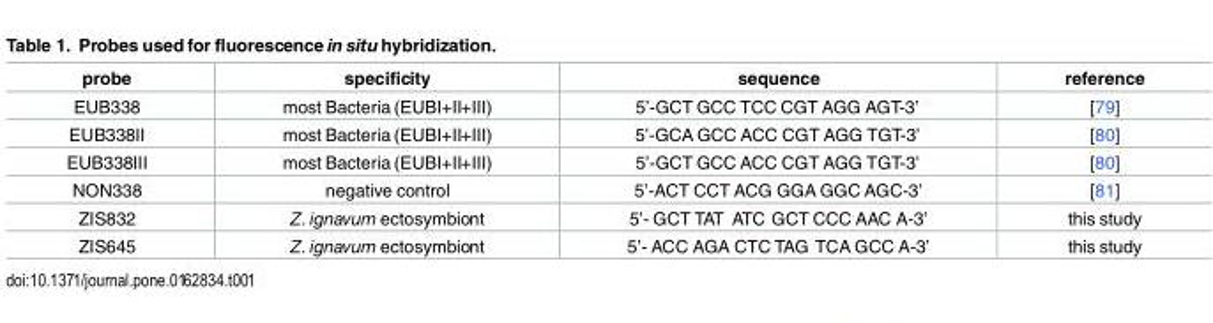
<table><thead><tr><td>probe</td><td>specificity</td><td>sequence</td><td>reference</td></tr></thead><tbody><tr><td>EUB338</td><td>most Bacteria (EUBI+II+III)</td><td>5’-GCT GCC TCC CGT AGG AGT-3’</td><td>[79]</td></tr><tr><td>EUB338II</td><td>most Bacteria (EUBI+II+III)</td><td>5’-GCA GCC ACC CGT AGG TGT-3’</td><td>[80]</td></tr><tr><td>EUB338III</td><td>most Bacteria (EUBI+II+III)</td><td>5’-GCT GCC ACC CGT AGG TGT-3’</td><td>[80]</td></tr><tr><td>NON338</td><td>negative control</td><td>5’-ACT CCT ACG GGA GGC AGC-3’</td><td>[81]</td></tr><tr><td>ZIS832</td><td>Z. ignavum ectosymbiont</td><td>5’- GCT TAT ATC GCT CCC AAC A-3’</td><td>this study</td></tr><tr><td>ZIS645</td><td>Z. ignavum ectosymbiont</td><td>5’- ACC AGA CTC TAG TCA GCC A-3’</td><td>this study</td></tr></tbody></table>